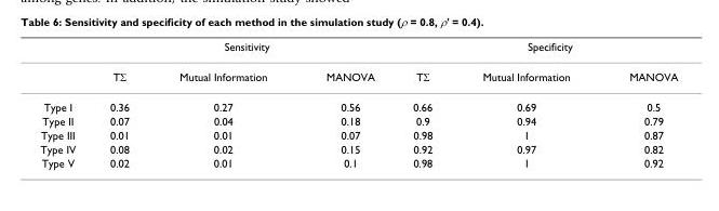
<table><thead><tr><td rowspan="2"></td><td colspan="3">Sensitivity</td><td colspan="3">Specificity</td></tr><tr><td>TΣ</td><td>Mutual Information</td><td>MANOVA</td><td>TΣ</td><td>Mutual Information</td><td>MANOVA</td></tr></thead><tbody><tr><td>Type I</td><td>0.36</td><td>0.27</td><td>0.56</td><td>0.66</td><td>0.69</td><td>0.5</td></tr><tr><td>Type II</td><td>0.07</td><td>0.04</td><td>0.18</td><td>0.9</td><td>0.94</td><td>0.79</td></tr><tr><td>Type III</td><td>0.01</td><td>0.01</td><td>0.07</td><td>0.98</td><td>1</td><td>0.87</td></tr><tr><td>Type IV</td><td>0.08</td><td>0.02</td><td>0.15</td><td>0.92</td><td>0.97</td><td>0.82</td></tr><tr><td>Type V</td><td>0.02</td><td>0.01</td><td>0.1</td><td>0.98</td><td>1</td><td>0.92</td></tr></tbody></table>